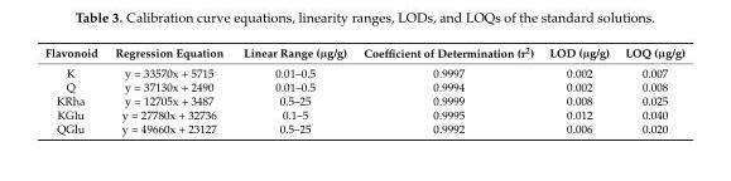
<table><thead><tr><td>Flavonoid</td><td>Regression Equation</td><td>Linear Range (µg/g)</td><td>Coefficient of Determination (r<sup>2</sup>)</td><td>LOD (µg/g)</td><td>LOQ (µg/g)</td></tr></thead><tbody><tr><td>K</td><td>y = 33570x + 5715</td><td>0.01–0.5</td><td>0.9997</td><td>0.002</td><td>0.007</td></tr><tr><td>Q</td><td>y = 37130x + 2490</td><td>0.01–0.5</td><td>0.9994</td><td>0.002</td><td>0.008</td></tr><tr><td>KRha</td><td>y = 12705x + 3487</td><td>0.5–25</td><td>0.9999</td><td>0.008</td><td>0.025</td></tr><tr><td>KGlu</td><td>y = 27780x + 32736</td><td>0.1–5</td><td>0.9995</td><td>0.012</td><td>0.040</td></tr><tr><td>QGlu</td><td>y = 49660x + 23127</td><td>0.5–25</td><td>0.9992</td><td>0.006</td><td>0.020</td></tr></tbody></table>